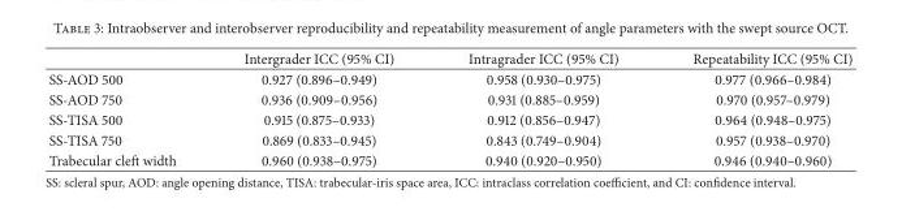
<table><thead><tr><td></td><td>Intergrader ICC (95% CI)</td><td>Intragrader ICC (95% CI)</td><td>Repeatability ICC (95% CI)</td></tr></thead><tbody><tr><td>SS-AOD 500</td><td>0.927 (0.896–0.949)</td><td>0.958 (0.930–0.975)</td><td>0.977 (0.966–0.984)</td></tr><tr><td>SS-AOD 750</td><td>0.936 (0.909–0.956)</td><td>0.931 (0.885–0.959)</td><td>0.970 (0.957–0.979)</td></tr><tr><td>SS-TISA 500</td><td>0.915 (0.875–0.933)</td><td>0.912 (0.856–0.947)</td><td>0.964 (0.948–0.975)</td></tr><tr><td>SS-TISA 750</td><td>0.869 (0.833–0.945)</td><td>0.843 (0.749–0.904)</td><td>0.957 (0.938–0.970)</td></tr><tr><td>Trabecular cleft width</td><td>0.960 (0.938–0.975)</td><td>0.940 (0.920–0.950)</td><td>0.946 (0.940–0.960)</td></tr></tbody></table>